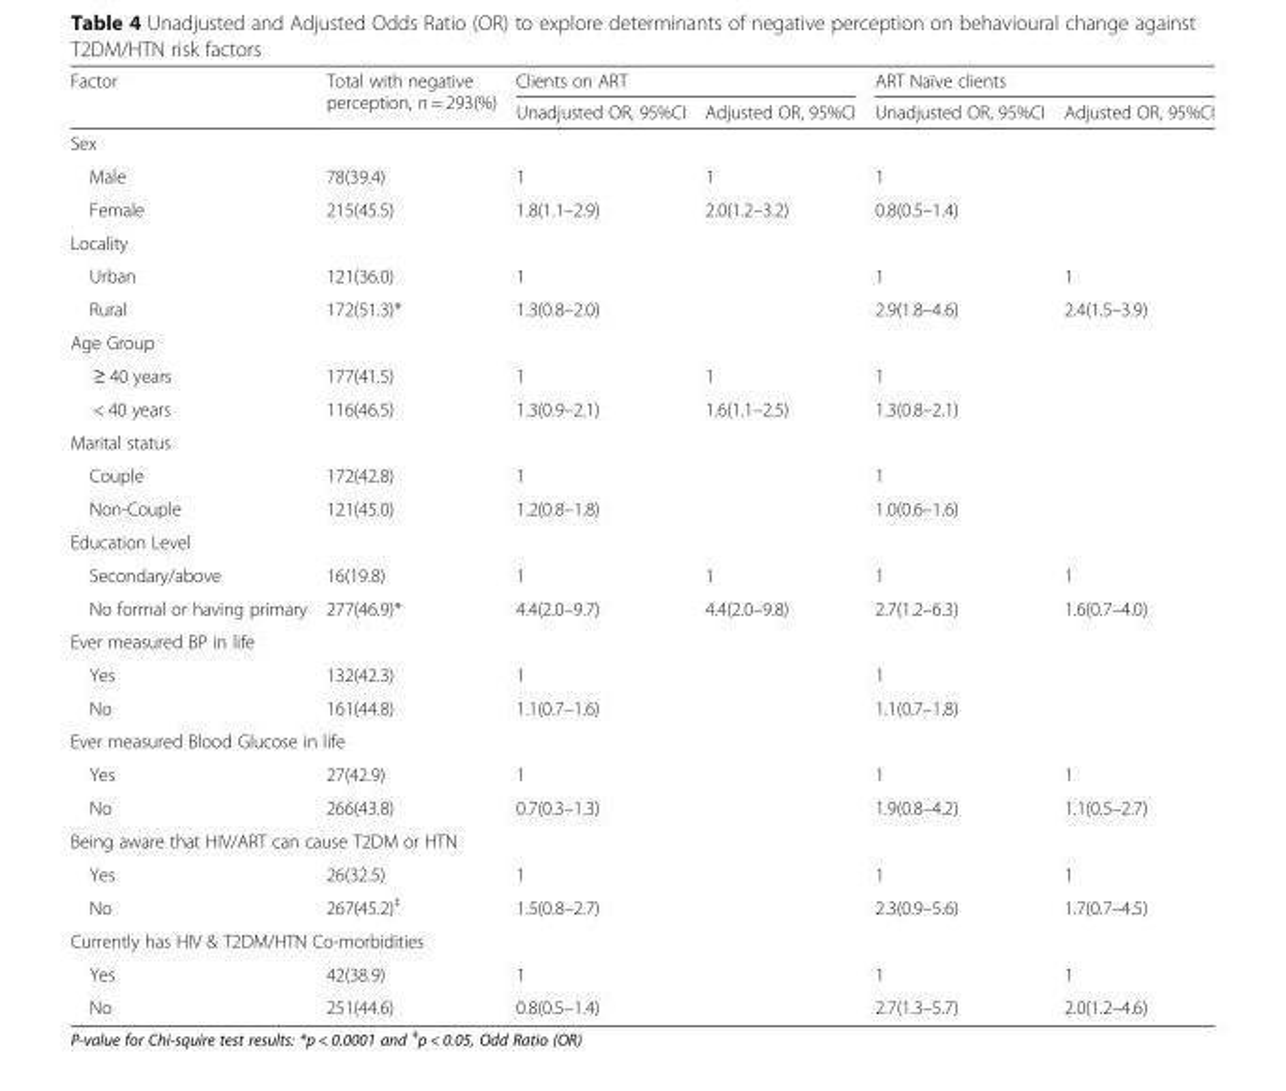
<table><thead><tr><td rowspan="2">Factor</td><td rowspan="2">Total with negative perception, n = 293(%)</td><td colspan="2">Clients on ART</td><td colspan="2">ART Naïve clients</td></tr><tr><td>Unadjusted OR, 95%CI</td><td>Adjusted OR, 95%CI</td><td>Unadjusted OR, 95%CI</td><td>Adjusted OR, 95%CI</td></tr></thead><tbody><tr><td colspan="6">Sex</td></tr><tr><td>Male</td><td>78(39.4)</td><td>1</td><td>1</td><td>1</td><td></td></tr><tr><td>Female</td><td>215(45.5)</td><td>1.8(1.1–2.9)</td><td>2.0(1.2–3.2)</td><td>0.8(0.5–1.4)</td><td></td></tr><tr><td colspan="6">Locality</td></tr><tr><td>Urban</td><td>121(36.0)</td><td>1</td><td></td><td>1</td><td>1</td></tr><tr><td>Rural</td><td>172(51.3)*</td><td>1.3(0.8–2.0)</td><td></td><td>2.9(1.8–4.6)</td><td>2.4(1.5–3.9)</td></tr><tr><td colspan="6">Age Group</td></tr><tr><td>≥ 40 years</td><td>177(41.5)</td><td>1</td><td>1</td><td>1</td><td></td></tr><tr><td>&lt; 40 years</td><td>116(46.5)</td><td>1.3(0.9–2.1)</td><td>1.6(1.1–2.5)</td><td>1.3(0.8–2.1)</td><td></td></tr><tr><td colspan="6">Marital status</td></tr><tr><td>Couple</td><td>172(42.8)</td><td>1</td><td></td><td>1</td><td></td></tr><tr><td>Non-Couple</td><td>121(45.0)</td><td>1.2(0.8–1.8)</td><td></td><td>1.0(0.6–1.6)</td><td></td></tr><tr><td colspan="6">Education Level</td></tr><tr><td>Secondary/above</td><td>16(19.8)</td><td>1</td><td>1</td><td>1</td><td>1</td></tr><tr><td>No formal or having primary</td><td>277(46.9)*</td><td>4.4(2.0–9.7)</td><td>4.4(2.0–9.8)</td><td>2.7(1.2–6.3)</td><td>1.6(0.7–4.0)</td></tr><tr><td colspan="6">Ever measured BP in life</td></tr><tr><td>Yes</td><td>132(42.3)</td><td>1</td><td></td><td>1</td><td></td></tr><tr><td>No</td><td>161(44.8)</td><td>1.1(0.7–1.6)</td><td></td><td>1.1(0.7–1.8)</td><td></td></tr><tr><td colspan="6">Ever measured Blood Glucose in life</td></tr><tr><td>Yes</td><td>27(42.9)</td><td>1</td><td></td><td>1</td><td>1</td></tr><tr><td>No</td><td>266(43.8)</td><td>0.7(0.3–1.3)</td><td></td><td>1.9(0.8–4.2)</td><td>1.1(0.5–2.7)</td></tr><tr><td colspan="6">Being aware that HIV/ART can cause T2DM or HTN</td></tr><tr><td>Yes</td><td>26(32.5)</td><td>1</td><td></td><td>1</td><td>1</td></tr><tr><td>No</td><td>267(45.2)<sup>‡</sup></td><td>1.5(0.8–2.7)</td><td></td><td>2.3(0.9–5.6)</td><td>1.7(0.7–4.5)</td></tr><tr><td colspan="6">Currently has HIV &amp; T2DM/HTN Co-morbidities</td></tr><tr><td>Yes</td><td>42(38.9)</td><td>1</td><td></td><td>1</td><td>1</td></tr><tr><td>No</td><td>251(44.6)</td><td>0.8(0.5–1.4)</td><td></td><td>2.7(1.3–5.7)</td><td>2.0(1.2–4.6)</td></tr></tbody></table>